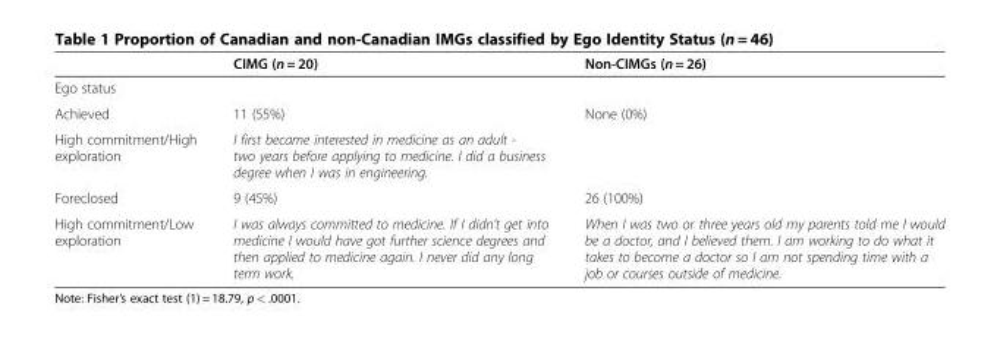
<table><thead><tr><td></td><td>CIMG (n = 20)</td><td>Non-CIMGs (n = 26)</td></tr></thead><tbody><tr><td colspan="3">Ego status</td></tr><tr><td>Achieved</td><td>11 (55%)</td><td>None (0%)</td></tr><tr><td>High commitment/High exploration</td><td>I first became interested in medicine as an adult - two years before applying to medicine. I did a business degree when I was in engineering.</td><td></td></tr><tr><td>Foreclosed</td><td>9 (45%)</td><td>26 (100%)</td></tr><tr><td>High commitment/Low exploration</td><td>I was always committed to medicine. If I didn’t get into medicine I would have got further science degrees and then applied to medicine again. I never did any long term work.</td><td>When I was two or three years old my parents told me I would be a doctor, and I believed them. I am working to do what it takes to become a doctor so I am not spending time with a job or courses outside of medicine.</td></tr></tbody></table>